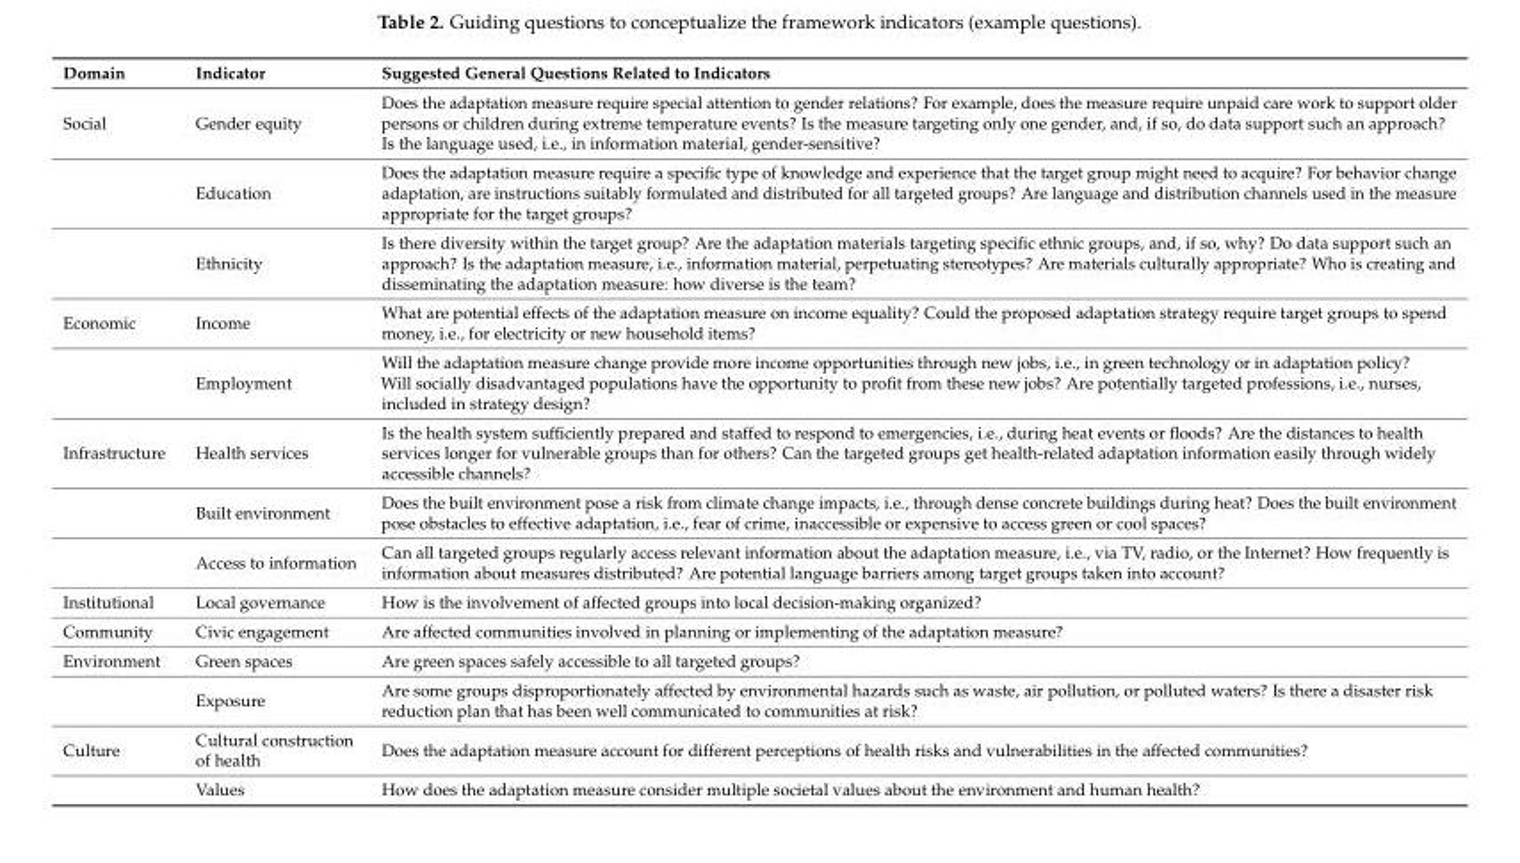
<table><thead><tr><td>Domain</td><td>Indicator</td><td>Suggested General Questions Related to Indicators</td></tr></thead><tbody><tr><td rowspan="3">Social</td><td>Gender equity</td><td>Does the adaptation measure require special attention to gender relations? For example, does the measure require unpaid care work to support older persons or children during extreme temperature events? Is the measure targeting only one gender, and, if so, do data support such an approach? Is the language used, i.e., in information material, gender-sensitive?</td></tr><tr><td>Education</td><td>Does the adaptation measure require a specific type of knowledge and experience that the target group might need to acquire? For behavior change adaptation, are instructions suitably formulated and distributed for all targeted groups? Are language and distribution channels used in the measure appropriate for the target groups?</td></tr><tr><td>Ethnicity</td><td>Is there diversity within the target group? Are the adaptation materials targeting specific ethnic groups, and, if so, why? Do data support such an approach? Is the adaptation measure, i.e., information material, perpetuating stereotypes? Are materials culturally appropriate? Who is creating and disseminating the adaptation measure: how diverse is the team?</td></tr><tr><td rowspan="2">Economic</td><td>Income</td><td>What are potential effects of the adaptation measure on income equality? Could the proposed adaptation strategy require target groups to spend money, i.e., for electricity or new household items?</td></tr><tr><td>Employment</td><td>Will the adaptation measure change provide more income opportunities through new jobs, i.e., in green technology or in adaptation policy? Will socially disadvantaged populations have the opportunity to profit from these new jobs? Are potentially targeted professions, i.e., nurses, included in strategy design?</td></tr><tr><td rowspan="3">Infrastructure</td><td>Health services</td><td>Is the health system sufficiently prepared and staffed to respond to emergencies, i.e., during heat events or floods? Are the distances to health services longer for vulnerable groups than for others? Can the targeted groups get health-related adaptation information easily through widely accessible channels?</td></tr><tr><td>Built environment</td><td>Does the built environment pose a risk from climate change impacts, i.e., through dense concrete buildings during heat? Does the built environment pose obstacles to effective adaptation, i.e., fear of crime, inaccessible or expensive to access green or cool spaces?</td></tr><tr><td>Access to information</td><td>Can all targeted groups regularly access relevant information about the adaptation measure, i.e., via TV, radio, or the Internet? How frequently is information about measures distributed? Are potential language barriers among target groups taken into account?</td></tr><tr><td>Institutional</td><td>Local governance</td><td>How is the involvement of affected groups into local decision-making organized?</td></tr><tr><td>Community</td><td>Civic engagement</td><td>Are affected communities involved in planning or implementing of the adaptation measure?</td></tr><tr><td rowspan="2">Environment</td><td>Green spaces</td><td>Are green spaces safely accessible to all targeted groups?</td></tr><tr><td>Exposure</td><td>Are some groups disproportionately affected by environmental hazards such as waste, air pollution, or polluted waters? Is there a disaster risk reduction plan that has been well communicated to communities at risk?</td></tr><tr><td rowspan="2">Culture</td><td>Cultural construction of health</td><td>Does the adaptation measure account for different perceptions of health risks and vulnerabilities in the affected communities?</td></tr><tr><td>Values</td><td>How does the adaptation measure consider multiple societal values about the environment and human health?</td></tr></tbody></table>